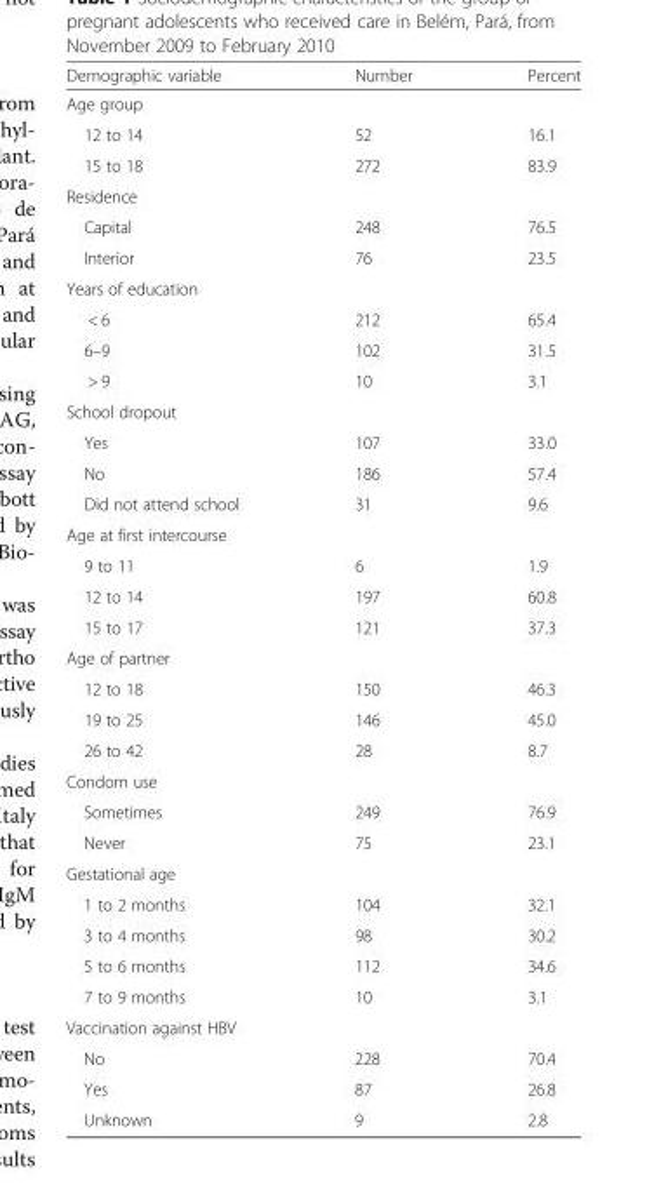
<table><thead><tr><td>Demographic variable</td><td>Number</td><td>Percent</td></tr></thead><tbody><tr><td colspan="3">Age group</td></tr><tr><td>12 to 14</td><td>52</td><td>16.1</td></tr><tr><td>15 to 18</td><td>272</td><td>83.9</td></tr><tr><td colspan="3">Residence</td></tr><tr><td>Capital</td><td>248</td><td>76.5</td></tr><tr><td>Interior</td><td>76</td><td>23.5</td></tr><tr><td colspan="3">Years of education</td></tr><tr><td>&lt; 6</td><td>212</td><td>65.4</td></tr><tr><td>6–9</td><td>102</td><td>31.5</td></tr><tr><td>&gt; 9</td><td>10</td><td>3.1</td></tr><tr><td colspan="3">School dropout</td></tr><tr><td>Yes</td><td>107</td><td>33.0</td></tr><tr><td>No</td><td>186</td><td>57.4</td></tr><tr><td>Did not attend school</td><td>31</td><td>9.6</td></tr><tr><td colspan="3">Age at first intercourse</td></tr><tr><td>9 to 11</td><td>6</td><td>1.9</td></tr><tr><td>12 to 14</td><td>197</td><td>60.8</td></tr><tr><td>15 to 17</td><td>121</td><td>37.3</td></tr><tr><td colspan="3">Age of partner</td></tr><tr><td>12 to 18</td><td>150</td><td>46.3</td></tr><tr><td>19 to 25</td><td>146</td><td>45.0</td></tr><tr><td>26 to 42</td><td>28</td><td>8.7</td></tr><tr><td colspan="3">Condom use</td></tr><tr><td>Sometimes</td><td>249</td><td>76.9</td></tr><tr><td>Never</td><td>75</td><td>23.1</td></tr><tr><td colspan="3">Gestational age</td></tr><tr><td>1 to 2 months</td><td>104</td><td>32.1</td></tr><tr><td>3 to 4 months</td><td>98</td><td>30.2</td></tr><tr><td>5 to 6 months</td><td>112</td><td>34.6</td></tr><tr><td>7 to 9 months</td><td>10</td><td>3.1</td></tr><tr><td colspan="3">Vaccination against HBV</td></tr><tr><td>No</td><td>228</td><td>70.4</td></tr><tr><td>Yes</td><td>87</td><td>26.8</td></tr><tr><td>Unknown</td><td>9</td><td>2.8</td></tr></tbody></table>